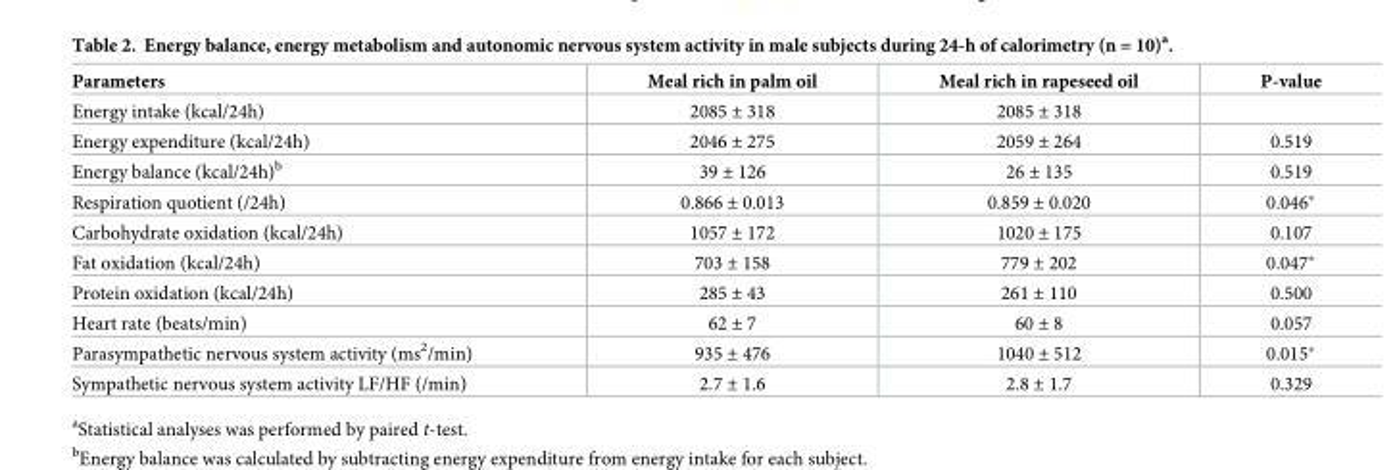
<table><thead><tr><td>Parameters</td><td>Meal rich in palm oil</td><td>Meal rich in rapeseed oil</td><td>P-value</td></tr></thead><tbody><tr><td>Energy intake (kcal/24h)</td><td>2085 ± 318</td><td>2085 ± 318</td><td></td></tr><tr><td>Energy expenditure (kcal/24h)</td><td>2046 ± 275</td><td>2059 ± 264</td><td>0.519</td></tr><tr><td>Energy balance (kcal/24h)<sup>b</sup></td><td>39 ± 126</td><td>26 ± 135</td><td>0.519</td></tr><tr><td>Respiration quotient (/24h)</td><td>0.866 ± 0.013</td><td>0.859 ± 0.020</td><td>0.046*</td></tr><tr><td>Carbohydrate oxidation (kcal/24h)</td><td>1057 ± 172</td><td>1020 ± 175</td><td>0.107</td></tr><tr><td>Fat oxidation (kcal/24h)</td><td>703 ± 158</td><td>779 ± 202</td><td>0.047*</td></tr><tr><td>Protein oxidation (kcal/24h)</td><td>285 ± 43</td><td>261 ± 110</td><td>0.500</td></tr><tr><td>Heart rate (beats/min)</td><td>62 ± 7</td><td>60 ± 8</td><td>0.057</td></tr><tr><td>Parasympathetic nervous system activity (ms<sup>2</sup>/min)</td><td>935 ± 476</td><td>1040 ± 512</td><td>0.015*</td></tr><tr><td>Sympathetic nervous system activity LF/HF (/min)</td><td>2.7 ± 1.6</td><td>2.8 ± 1.7</td><td>0.329</td></tr></tbody></table>